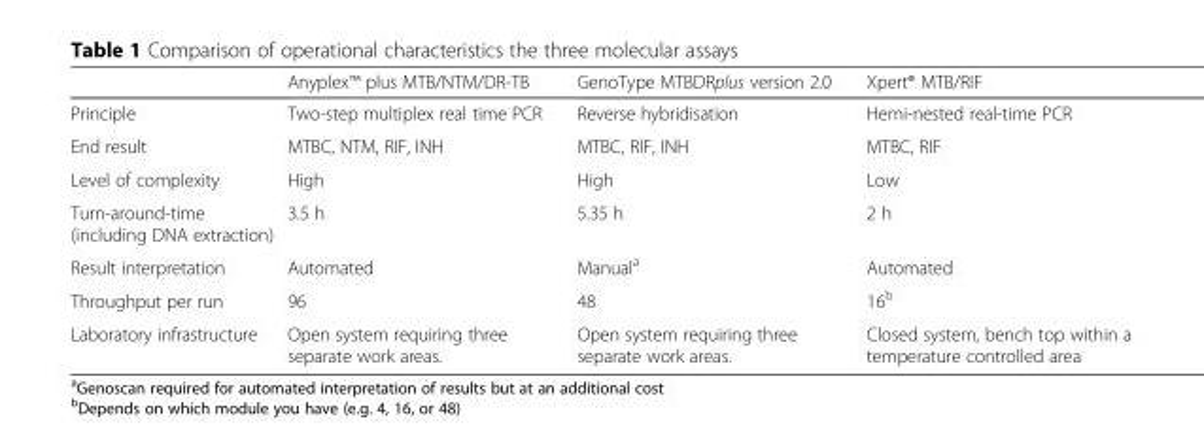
<table><thead><tr><td></td><td>Anyplex™ plus MTB/NTM/DR-TB</td><td>GenoType MTBDRplus version 2.0</td><td>Xpert® MTB/RIF</td></tr></thead><tbody><tr><td>Principle</td><td>Two-step multiplex real time PCR</td><td>Reverse hybridisation</td><td>Hemi-nested real-time PCR</td></tr><tr><td>End result</td><td>MTBC, NTM, RIF, INH</td><td>MTBC, RIF, INH</td><td>MTBC, RIF</td></tr><tr><td>Level of complexity</td><td>High</td><td>High</td><td>Low</td></tr><tr><td>Turn-around-time (including DNA extraction)</td><td>3.5 h</td><td>5.35 h</td><td>2 h</td></tr><tr><td>Result interpretation</td><td>Automated</td><td>Manual<sup>a</sup></td><td>Automated</td></tr><tr><td>Throughput per run</td><td>96</td><td>48</td><td>16<sup>b</sup></td></tr><tr><td>Laboratory infrastructure</td><td>Open system requiring three separate work areas.</td><td>Open system requiring three separate work areas.</td><td>Closed system, bench top within a temperature controlled area</td></tr></tbody></table>